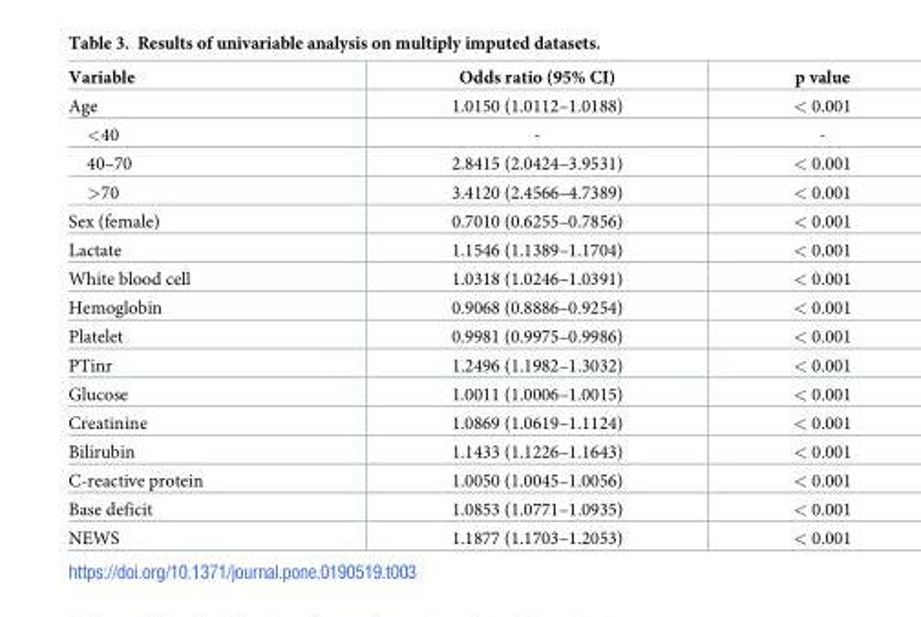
<table><thead><tr><td>Variable</td><td>Odds ratio (95% CI)</td><td>p value</td></tr></thead><tbody><tr><td>Age</td><td>1.0150 (1.0112–1.0188)</td><td>&lt; 0.001</td></tr><tr><td>&lt;40</td><td>-</td><td>-</td></tr><tr><td>40–70</td><td>2.8415 (2.0424–3.9531)</td><td>&lt; 0.001</td></tr><tr><td>&gt;70</td><td>3.4120 (2.4566–4.7389)</td><td>&lt; 0.001</td></tr><tr><td>Sex (female)</td><td>0.7010 (0.6255–0.7856)</td><td>&lt; 0.001</td></tr><tr><td>Lactate</td><td>1.1546 (1.1389–1.1704)</td><td>&lt; 0.001</td></tr><tr><td>White blood cell</td><td>1.0318 (1.0246–1.0391)</td><td>&lt; 0.001</td></tr><tr><td>Hemoglobin</td><td>0.9068 (0.8886–0.9254)</td><td>&lt; 0.001</td></tr><tr><td>Platelet</td><td>0.9981 (0.9975–0.9986)</td><td>&lt; 0.001</td></tr><tr><td>PTinr</td><td>1.2496 (1.1982–1.3032)</td><td>&lt; 0.001</td></tr><tr><td>Glucose</td><td>1.0011 (1.0006–1.0015)</td><td>&lt; 0.001</td></tr><tr><td>Creatinine</td><td>1.0869 (1.0619–1.1124)</td><td>&lt; 0.001</td></tr><tr><td>Bilirubin</td><td>1.1433 (1.1226–1.1643)</td><td>&lt; 0.001</td></tr><tr><td>C-reactive protein</td><td>1.0050 (1.0045–1.0056)</td><td>&lt; 0.001</td></tr><tr><td>Base deficit</td><td>1.0853 (1.0771–1.0935)</td><td>&lt; 0.001</td></tr><tr><td>NEWS</td><td>1.1877 (1.1703–1.2053)</td><td>&lt; 0.001</td></tr></tbody></table>